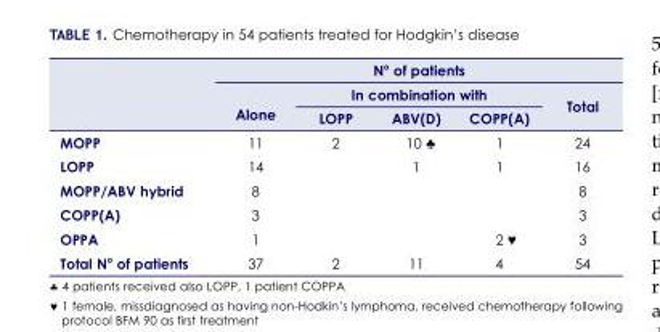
<table><thead><tr><td rowspan="3"></td><td colspan="5">N° of patients</td></tr><tr><td rowspan="2">Alone</td><td colspan="3">In combination with</td><td rowspan="2">Total</td></tr><tr><td>LOPP</td><td>ABV(D)</td><td>COPP(A)</td></tr></thead><tbody><tr><td>MOPP</td><td>11</td><td>2</td><td>10 ♣</td><td>1</td><td>24</td></tr><tr><td>LOPP</td><td>14</td><td></td><td>1</td><td>1</td><td>16</td></tr><tr><td>MOPP/ABV hybrid</td><td>8</td><td></td><td></td><td></td><td>8</td></tr><tr><td>COPP(A)</td><td>3</td><td></td><td></td><td></td><td>3</td></tr><tr><td>OPPA</td><td>1</td><td></td><td></td><td>2 ♥</td><td>3</td></tr><tr><td>Total N° of patients</td><td>37</td><td>2</td><td>11</td><td>4</td><td>54</td></tr></tbody></table>